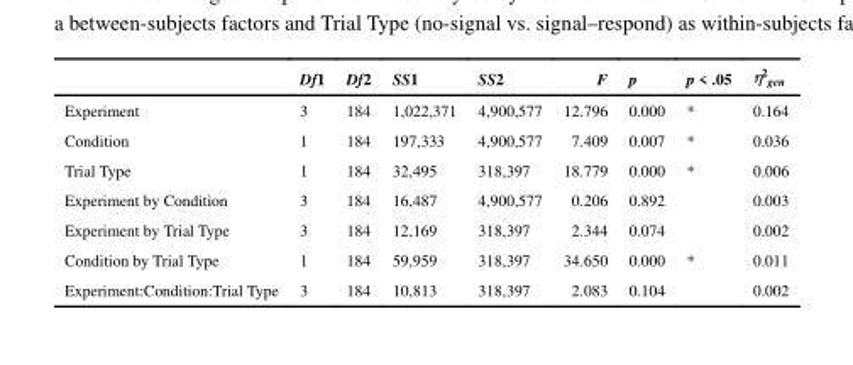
<table><thead><tr><td></td><td>Df1</td><td>Df2</td><td>SS1</td><td>SS2</td><td>F</td><td>p</td><td>p &lt; .05</td><td>η<sup>2</sup><sub>gen</sub></td></tr></thead><tbody><tr><td>Experiment</td><td>3</td><td>184</td><td>1,022,371</td><td>4,900,577</td><td>12.796</td><td>0.000</td><td>*</td><td>0.164</td></tr><tr><td>Condition</td><td>1</td><td>184</td><td>197,333</td><td>4,900,577</td><td>7.409</td><td>0.007</td><td>*</td><td>0.036</td></tr><tr><td>Trial Type</td><td>1</td><td>184</td><td>32,495</td><td>318,397</td><td>18.779</td><td>0.000</td><td>*</td><td>0.006</td></tr><tr><td>Experiment by Condition</td><td>3</td><td>184</td><td>16,487</td><td>4,900,577</td><td>0.206</td><td>0.892</td><td></td><td>0.003</td></tr><tr><td>Experiment by Trial Type</td><td>3</td><td>184</td><td>12,169</td><td>318,397</td><td>2.344</td><td>0.074</td><td></td><td>0.002</td></tr><tr><td>Condition by Trial Type</td><td>1</td><td>184</td><td>59,959</td><td>318,397</td><td>34.650</td><td>0.000</td><td>*</td><td>0.011</td></tr><tr><td>Experiment:Condition:Trial Type</td><td>3</td><td>184</td><td>10,813</td><td>318,397</td><td>2.083</td><td>0.104</td><td></td><td>0.002</td></tr></tbody></table>